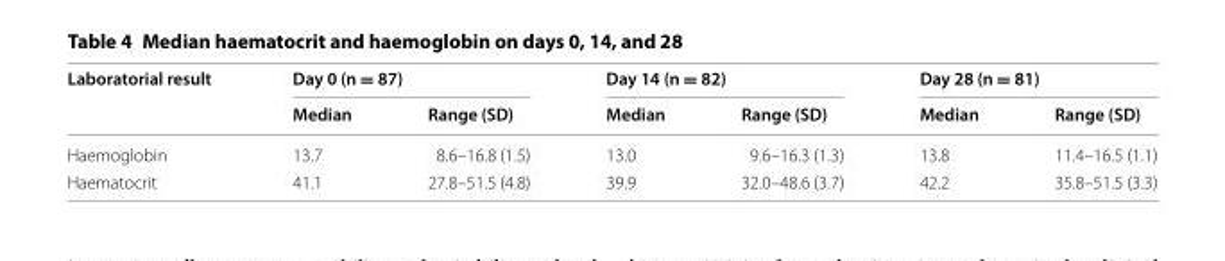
<table><thead><tr><td rowspan="2">Laboratorial result</td><td colspan="2">Day 0 (n = 87)</td><td colspan="2">Day 14 (n = 82)</td><td colspan="2">Day 28 (n = 81)</td></tr><tr><td>Median</td><td>Range (SD)</td><td>Median</td><td>Range (SD)</td><td>Median</td><td>Range (SD)</td></tr></thead><tbody><tr><td>Haemoglobin</td><td>13.7</td><td>8.6–16.8 (1.5)</td><td>13.0</td><td>9.6–16.3 (1.3)</td><td>13.8</td><td>11.4–16.5 (1.1)</td></tr><tr><td>Haematocrit</td><td>41.1</td><td>27.8–51.5 (4.8)</td><td>39.9</td><td>32.0–48.6 (3.7)</td><td>42.2</td><td>35.8–51.5 (3.3)</td></tr></tbody></table>